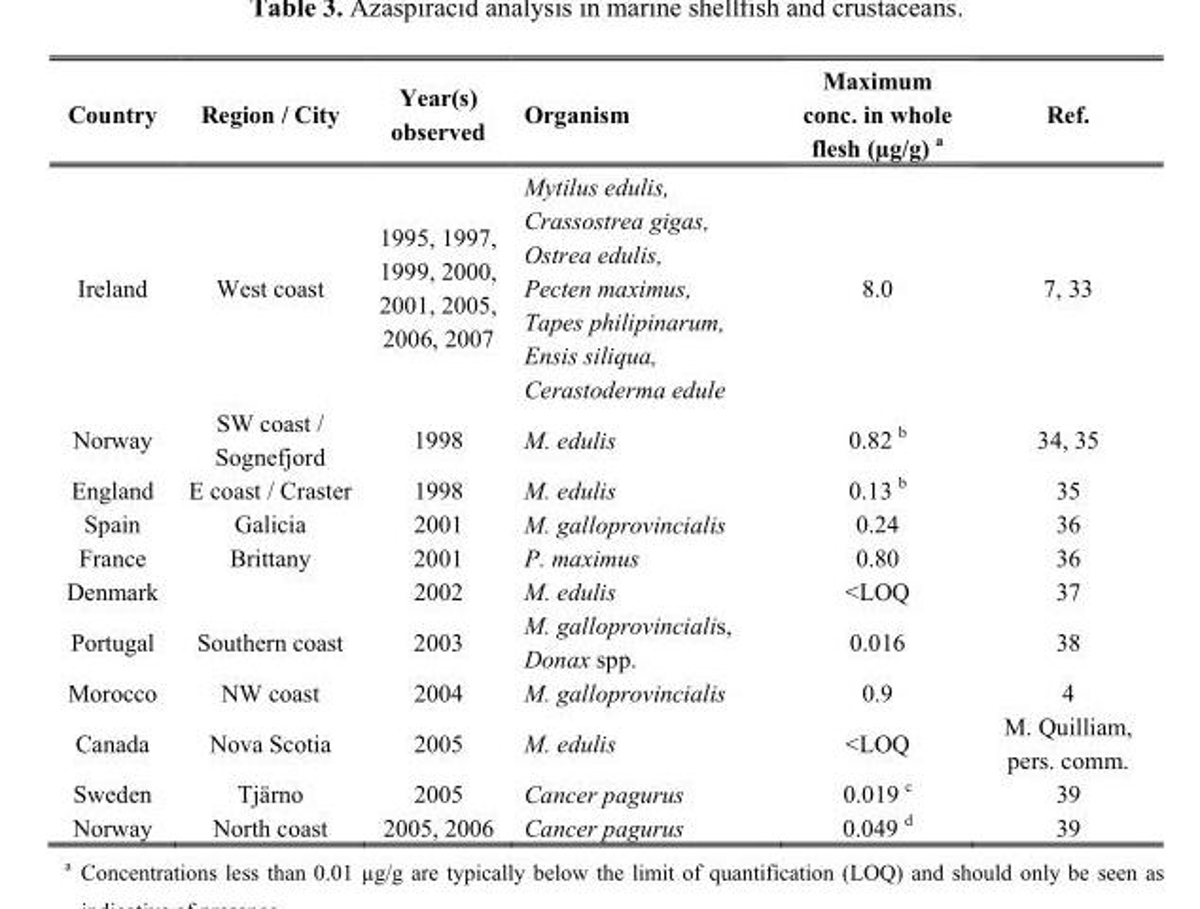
<table><thead><tr><td>Country</td><td>Region / City</td><td>Year(s) observed</td><td>Organism</td><td>Maximum conc. in whole flesh (µg/g) <sup>a</sup></td><td>Ref.</td></tr></thead><tbody><tr><td>Ireland</td><td>West coast</td><td>1995, 1997, 1999, 2000, 2001, 2005, 2006, 2007</td><td>Mytilus edulis, Crassostrea gigas, Ostrea edulis, Pecten maximus, Tapes philipinarum, Ensis siliqua, Cerastoderma edule</td><td>8.0</td><td>7, 33</td></tr><tr><td>Norway</td><td>SW coast / Sognefjord</td><td>1998</td><td>M. edulis</td><td>0.82 <sup>b</sup></td><td>34, 35</td></tr><tr><td>England</td><td>E coast / Craster</td><td>1998</td><td>M. edulis</td><td>0.13 <sup>b</sup></td><td>35</td></tr><tr><td>Spain</td><td>Galicia</td><td>2001</td><td>M. galloprovincialis</td><td>0.24</td><td>36</td></tr><tr><td>France</td><td>Brittany</td><td>2001</td><td>P. maximus</td><td>0.80</td><td>36</td></tr><tr><td>Denmark</td><td></td><td>2002</td><td>M. edulis</td><td>&lt;LOQ</td><td>37</td></tr><tr><td>Portugal</td><td>Southern coast</td><td>2003</td><td>M. galloprovincialis, Donax spp.</td><td>0.016</td><td>38</td></tr><tr><td>Morocco</td><td>NW coast</td><td>2004</td><td>M. galloprovincialis</td><td>0.9</td><td>4</td></tr><tr><td>Canada</td><td>Nova Scotia</td><td>2005</td><td>M. edulis</td><td>&lt;LOQ</td><td>M. Quilliam, pers. comm.</td></tr><tr><td>Sweden</td><td>Tjärno</td><td>2005</td><td>Cancer pagurus</td><td>0.019 <sup>c</sup></td><td>39</td></tr><tr><td>Norway</td><td>North coast</td><td>2005, 2006</td><td>Cancer pagurus</td><td>0.049 <sup>d</sup></td><td>39</td></tr></tbody></table>